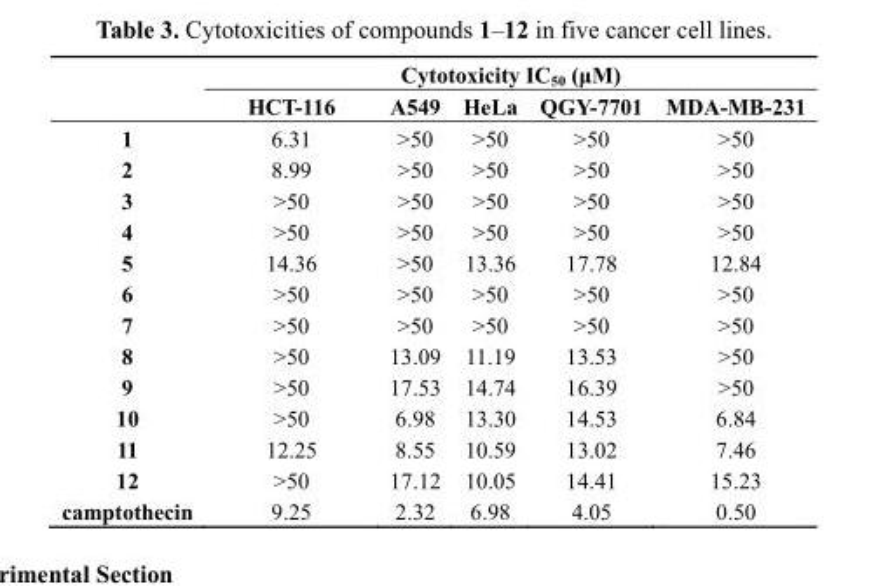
<table><thead><tr><td rowspan="2"></td><td colspan="5">Cytotoxicity IC<sub>50</sub> (μM)</td></tr><tr><td>HCT-116</td><td>A549</td><td>HeLa</td><td>QGY-7701</td><td>MDA-MB-231</td></tr></thead><tbody><tr><td>1</td><td>6.31</td><td>&gt;50</td><td>&gt;50</td><td>&gt;50</td><td>&gt;50</td></tr><tr><td>2</td><td>8.99</td><td>&gt;50</td><td>&gt;50</td><td>&gt;50</td><td>&gt;50</td></tr><tr><td>3</td><td>&gt;50</td><td>&gt;50</td><td>&gt;50</td><td>&gt;50</td><td>&gt;50</td></tr><tr><td>4</td><td>&gt;50</td><td>&gt;50</td><td>&gt;50</td><td>&gt;50</td><td>&gt;50</td></tr><tr><td>5</td><td>14.36</td><td>&gt;50</td><td>13.36</td><td>17.78</td><td>12.84</td></tr><tr><td>6</td><td>&gt;50</td><td>&gt;50</td><td>&gt;50</td><td>&gt;50</td><td>&gt;50</td></tr><tr><td>7</td><td>&gt;50</td><td>&gt;50</td><td>&gt;50</td><td>&gt;50</td><td>&gt;50</td></tr><tr><td>8</td><td>&gt;50</td><td>13.09</td><td>11.19</td><td>13.53</td><td>&gt;50</td></tr><tr><td>9</td><td>&gt;50</td><td>17.53</td><td>14.74</td><td>16.39</td><td>&gt;50</td></tr><tr><td>10</td><td>&gt;50</td><td>6.98</td><td>13.30</td><td>14.53</td><td>6.84</td></tr><tr><td>11</td><td>12.25</td><td>8.55</td><td>10.59</td><td>13.02</td><td>7.46</td></tr><tr><td>12</td><td>&gt;50</td><td>17.12</td><td>10.05</td><td>14.41</td><td>15.23</td></tr><tr><td>camptothecin</td><td>9.25</td><td>2.32</td><td>6.98</td><td>4.05</td><td>0.50</td></tr></tbody></table>